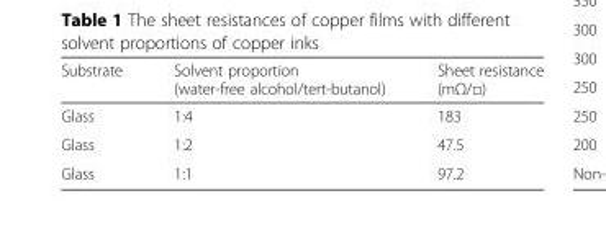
<table><thead><tr><td>Substrate</td><td>Solvent proportion (water-free alcohol/tert-butanol)</td><td>Sheet resistance (mΩ/□)</td></tr></thead><tbody><tr><td>Glass</td><td>1:4</td><td>183</td></tr><tr><td>Glass</td><td>1:2</td><td>47.5</td></tr><tr><td>Glass</td><td>1:1</td><td>97.2</td></tr></tbody></table>